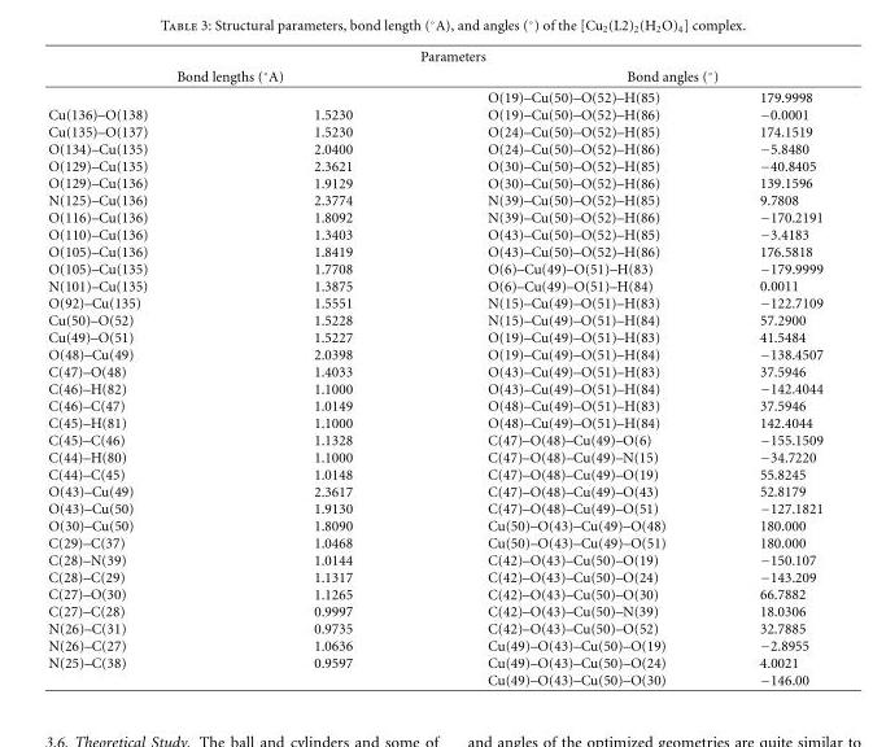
<table><thead><tr><td></td><td colspan="2">Parameters</td><td></td></tr><tr><td colspan="2">Bond lengths (◦A)</td><td colspan="2">Bond angles (◦)</td></tr><tr><td>Cu(136)–O(138) Cu(135)–O(137) O(134)–Cu(135) O(129)–Cu(135) O(129)–Cu(136) N(125)–Cu(136) O(116)–Cu(136) O(110)–Cu(136) O(105)–Cu(136) O(105)–Cu(135) N(101)–Cu(135) O(92)–Cu(135) Cu(50)–O(52) Cu(49)–O(51) O(48)–Cu(49) C(47)–O(48) C(46)–H(82) C(46)–C(47) C(45)–H(81) C(45)–C(46) C(44)–H(80) C(44)–C(45) O(43)–Cu(49) O(43)–Cu(50) O(30)–Cu(50) C(29)–C(37) C(28)–N(39) C(28)–C(29) C(27)–O(30) C(27)–C(28) N(26)–C(31) N(26)–C(27) N(25)–C(38)</td><td>1.5230 1.5230 2.0400 2.3621 1.9129 2.3774 1.8092 1.3403 1.8419 1.7708 1.3875 1.5551 1.5228 1.5227 2.0398 1.4033 1.1000 1.0149 1.1000 1.1328 1.1000 1.0148 2.3617 1.9130 1.8090 1.0468 1.0144 1.1317 1.1265 0.9997 0.9735 1.0636 0.9597</td><td>O(19)–Cu(50)–O(52)–H(85) O(19)–Cu(50)–O(52)–H(86) O(24)–Cu(50)–O(52)–H(85) O(24)–Cu(50)–O(52)–H(86) O(30)–Cu(50)–O(52)–H(85) O(30)–Cu(50)–O(52)–H(86) N(39)–Cu(50)–O(52)–H(85) N(39)–Cu(50)–O(52)–H(86) O(43)–Cu(50)–O(52)–H(85) O(43)–Cu(50)–O(52)–H(86) O(6)–Cu(49)–O(51)–H(83) O(6)–Cu(49)–O(51)–H(84) N(15)–Cu(49)–O(51)–H(83) N(15)–Cu(49)–O(51)–H(84) O(19)–Cu(49)–O(51)–H(83) O(19)–Cu(49)–O(51)–H(84) O(43)–Cu(49)–O(51)–H(83) O(43)–Cu(49)–O(51)–H(84) O(48)–Cu(49)–O(51)–H(83) O(48)–Cu(49)–O(51)–H(84) C(47)–O(48)–Cu(49)–O(6) C(47)–O(48)–Cu(49)–N(15) C(47)–O(48)–Cu(49)–O(19) C(47)–O(48)–Cu(49)–O(43) C(47)–O(48)–Cu(49)–O(51) Cu(50)–O(43)–Cu(49)–O(48) Cu(50)–O(43)–Cu(49)–O(51) C(42)–O(43)–Cu(50)–O(19) C(42)–O(43)–Cu(50)–O(24) C(42)–O(43)–Cu(50)–O(30) C(42)–O(43)–Cu(50)–N(39) C(42)–O(43)–Cu(50)–O(52) Cu(49)–O(43)–Cu(50)–O(19) Cu(49)–O(43)–Cu(50)–O(24) Cu(49)–O(43)–Cu(50)–O(30)</td><td>179.9998 −0.0001 174.1519 −5.8480 −40.8405 139.1596 9.7808 −170.2191 −3.4183 176.5818 −179.9999 0.0011 −122.7109 57.2900 41.5484 −138.4507 37.5946 −142.4044 37.5946 142.4044 −155.1509 −34.7220 55.8245 52.8179 −127.1821 180.000 180.000 −150.107 −143.209 66.7882 18.0306 32.7885 −2.8955 4.0021 −146.00</td></tr></thead><tbody></tbody></table>